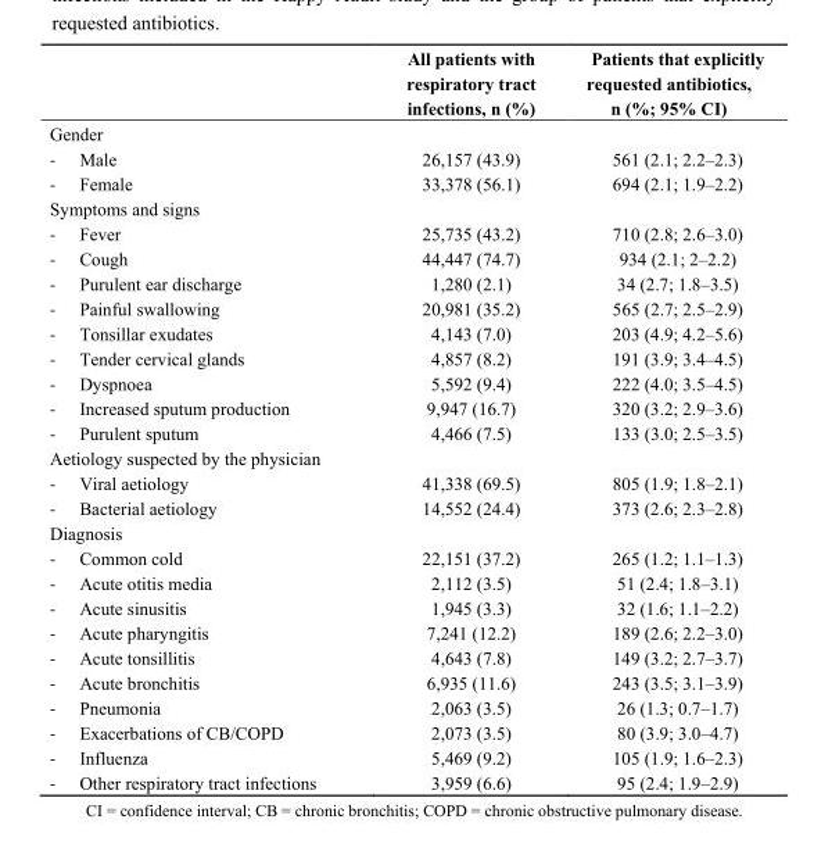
<table><thead><tr><td></td><td>All patients with respiratory tract infections, n (%)</td><td>Patients that explicitly requested antibiotics, n (%; 95% CI)</td></tr></thead><tbody><tr><td colspan="3">Gender</td></tr><tr><td>- Male</td><td>26,157 (43.9)</td><td>561 (2.1; 2.2–2.3)</td></tr><tr><td>- Female</td><td>33,378 (56.1)</td><td>694 (2.1; 1.9–2.2)</td></tr><tr><td colspan="3">Symptoms and signs</td></tr><tr><td>- Fever</td><td>25,735 (43.2)</td><td>710 (2.8; 2.6–3.0)</td></tr><tr><td>- Cough</td><td>44,447 (74.7)</td><td>934 (2.1; 2–2.2)</td></tr><tr><td>- Purulent ear discharge</td><td>1,280 (2.1)</td><td>34 (2.7; 1.8–3.5)</td></tr><tr><td>- Painful swallowing</td><td>20,981 (35.2)</td><td>565 (2.7; 2.5–2.9)</td></tr><tr><td>- Tonsillar exudates</td><td>4,143 (7.0)</td><td>203 (4.9; 4.2–5.6)</td></tr><tr><td>- Tender cervical glands</td><td>4,857 (8.2)</td><td>191 (3.9; 3.4–4.5)</td></tr><tr><td>- Dyspnoea</td><td>5,592 (9.4)</td><td>222 (4.0; 3.5–4.5)</td></tr><tr><td>- Increased sputum production</td><td>9,947 (16.7)</td><td>320 (3.2; 2.9–3.6)</td></tr><tr><td>- Purulent sputum</td><td>4,466 (7.5)</td><td>133 (3.0; 2.5–3.5)</td></tr><tr><td colspan="3">Aetiology suspected by the physician</td></tr><tr><td>- Viral aetiology</td><td>41,338 (69.5)</td><td>805 (1.9; 1.8–2.1)</td></tr><tr><td>- Bacterial aetiology</td><td>14,552 (24.4)</td><td>373 (2.6; 2.3–2.8)</td></tr><tr><td colspan="3">Diagnosis</td></tr><tr><td>- Common cold</td><td>22,151 (37.2)</td><td>265 (1.2; 1.1–1.3)</td></tr><tr><td>- Acute otitis media</td><td>2,112 (3.5)</td><td>51 (2.4; 1.8–3.1)</td></tr><tr><td>- Acute sinusitis</td><td>1,945 (3.3)</td><td>32 (1.6; 1.1–2.2)</td></tr><tr><td>- Acute pharyngitis</td><td>7,241 (12.2)</td><td>189 (2.6; 2.2–3.0)</td></tr><tr><td>- Acute tonsillitis</td><td>4,643 (7.8)</td><td>149 (3.2; 2.7–3.7)</td></tr><tr><td>- Acute bronchitis</td><td>6,935 (11.6)</td><td>243 (3.5; 3.1–3.9)</td></tr><tr><td>- Pneumonia</td><td>2,063 (3.5)</td><td>26 (1.3; 0.7–1.7)</td></tr><tr><td>- Exacerbations of CB/COPD</td><td>2,073 (3.5)</td><td>80 (3.9; 3.0–4.7)</td></tr><tr><td>- Influenza</td><td>5,469 (9.2)</td><td>105 (1.9; 1.6–2.3)</td></tr><tr><td>- Other respiratory tract infections</td><td>3,959 (6.6)</td><td>95 (2.4; 1.9–2.9)</td></tr></tbody></table>